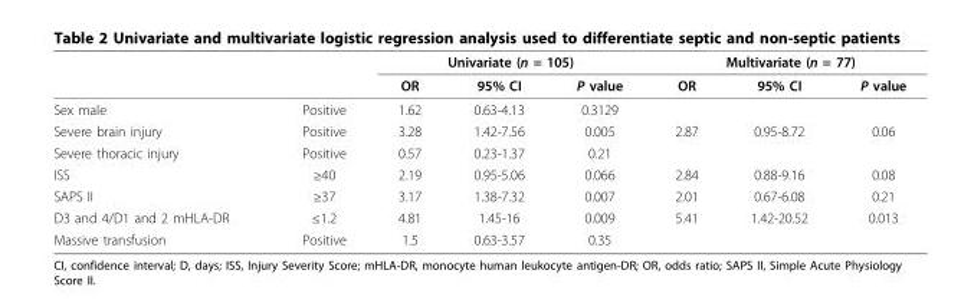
<table><thead><tr><td rowspan="2"></td><td rowspan="2"></td><td colspan="3">Univariate (n = 105)</td><td colspan="3">Multivariate (n = 77)</td></tr><tr><td>OR</td><td>95% CI</td><td>P value</td><td>OR</td><td>95% CI</td><td>P value</td></tr></thead><tbody><tr><td>Sex male</td><td>Positive</td><td>1.62</td><td>0.63-4.13</td><td>0.3129</td><td></td><td></td><td></td></tr><tr><td>Severe brain injury</td><td>Positive</td><td>3.28</td><td>1.42-7.56</td><td>0.005</td><td>2.87</td><td>0.95-8.72</td><td>0.06</td></tr><tr><td>Severe thoracic injury</td><td>Positive</td><td>0.57</td><td>0.23-1.37</td><td>0.21</td><td></td><td></td><td></td></tr><tr><td>ISS</td><td>≥40</td><td>2.19</td><td>0.95-5.06</td><td>0.066</td><td>2.84</td><td>0.88-9.16</td><td>0.08</td></tr><tr><td>SAPS II</td><td>≥37</td><td>3.17</td><td>1.38-7.32</td><td>0.007</td><td>2.01</td><td>0.67-6.08</td><td>0.21</td></tr><tr><td>D3 and 4/D1 and 2 mHLA-DR</td><td>≤1.2</td><td>4.81</td><td>1.45-16</td><td>0.009</td><td>5.41</td><td>1.42-20.52</td><td>0.013</td></tr><tr><td>Massive transfusion</td><td>Positive</td><td>1.5</td><td>0.63-3.57</td><td>0.35</td><td></td><td></td><td></td></tr></tbody></table>